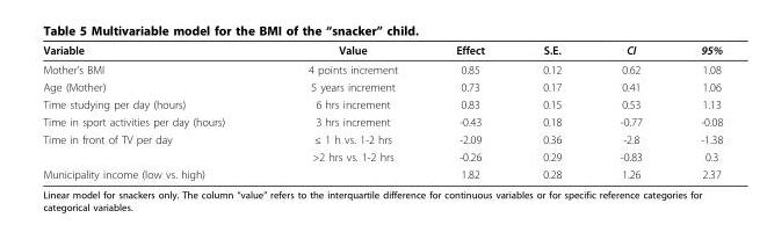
<table><thead><tr><td>Variable</td><td>Value</td><td>Effect</td><td>S.E.</td><td>CI</td><td>95%</td></tr></thead><tbody><tr><td>Mother’s BMI</td><td>4 points increment</td><td>0.85</td><td>0.12</td><td>0.62</td><td>1.08</td></tr><tr><td>Age (Mother)</td><td>5 years increment</td><td>0.73</td><td>0.17</td><td>0.41</td><td>1.06</td></tr><tr><td>Time studying per day (hours)</td><td>6 hrs increment</td><td>0.83</td><td>0.15</td><td>0.53</td><td>1.13</td></tr><tr><td>Time in sport activities per day (hours)</td><td>3 hrs increment</td><td>-0.43</td><td>0.18</td><td>-0.77</td><td>-0.08</td></tr><tr><td rowspan="2">Time in front of TV per day</td><td>≤ 1 h vs. 1-2 hrs</td><td>-2.09</td><td>0.36</td><td>-2.8</td><td>-1.38</td></tr><tr><td>&gt;2 hrs vs. 1-2 hrs</td><td>-0.26</td><td>0.29</td><td>-0.83</td><td>0.3</td></tr><tr><td>Municipality income (low vs. high)</td><td></td><td>1.82</td><td>0.28</td><td>1.26</td><td>2.37</td></tr></tbody></table>